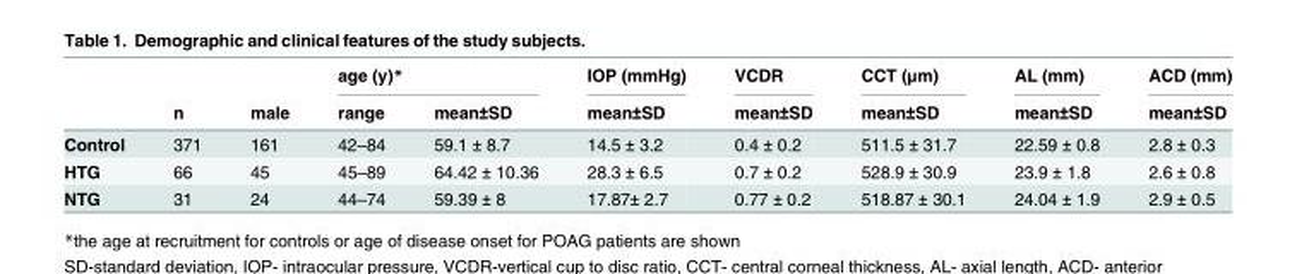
<table><thead><tr><td rowspan="2"></td><td rowspan="2">n</td><td rowspan="2">male</td><td colspan="2">age (y)*</td><td rowspan="2">IOP (mmHg) mean±SD</td><td rowspan="2">VCDR mean±SD</td><td rowspan="2">CCT (μm) mean±SD</td><td rowspan="2">AL (mm) mean±SD</td><td rowspan="2">ACD (mm) mean±SD</td></tr><tr><td>range</td><td>mean±SD</td></tr></thead><tbody><tr><td>Control</td><td>371</td><td>161</td><td>42–84</td><td>59.1 ± 8.7</td><td>14.5 ± 3.2</td><td>0.4 ± 0.2</td><td>511.5 ± 31.7</td><td>22.59 ± 0.8</td><td>2.8 ± 0.3</td></tr><tr><td>HTG</td><td>66</td><td>45</td><td>45–89</td><td>64.42 ± 10.36</td><td>28.3 ± 6.5</td><td>0.7 ± 0.2</td><td>528.9 ± 30.9</td><td>23.9 ± 1.8</td><td>2.6 ± 0.8</td></tr><tr><td>NTG</td><td>31</td><td>24</td><td>44–74</td><td>59.39 ± 8</td><td>17.87± 2.7</td><td>0.77 ± 0.2</td><td>518.87 ± 30.1</td><td>24.04 ± 1.9</td><td>2.9 ± 0.5</td></tr></tbody></table>